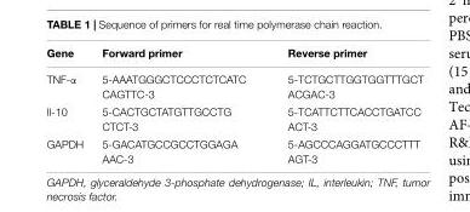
<table><thead><tr><td>Gene</td><td>Forward primer</td><td>Reverse primer</td></tr></thead><tbody><tr><td>TNF-α</td><td>5-AAATGGGCTCCCTCTCATC CAGTTC-3</td><td>5-TCTGCTTGGTGGTTTGCT ACGAC-3</td></tr><tr><td>Il-10</td><td>5-CACTGCTATGTTGCCTG CTCT-3</td><td>5-TCATTCTTCACCTGATCC ACT-3</td></tr><tr><td>GAPDH</td><td>5-GACATGCCGCCTGGAGA AAC-3</td><td>5-AGCCCAGGATGCCCTTT AGT-3</td></tr></tbody></table>